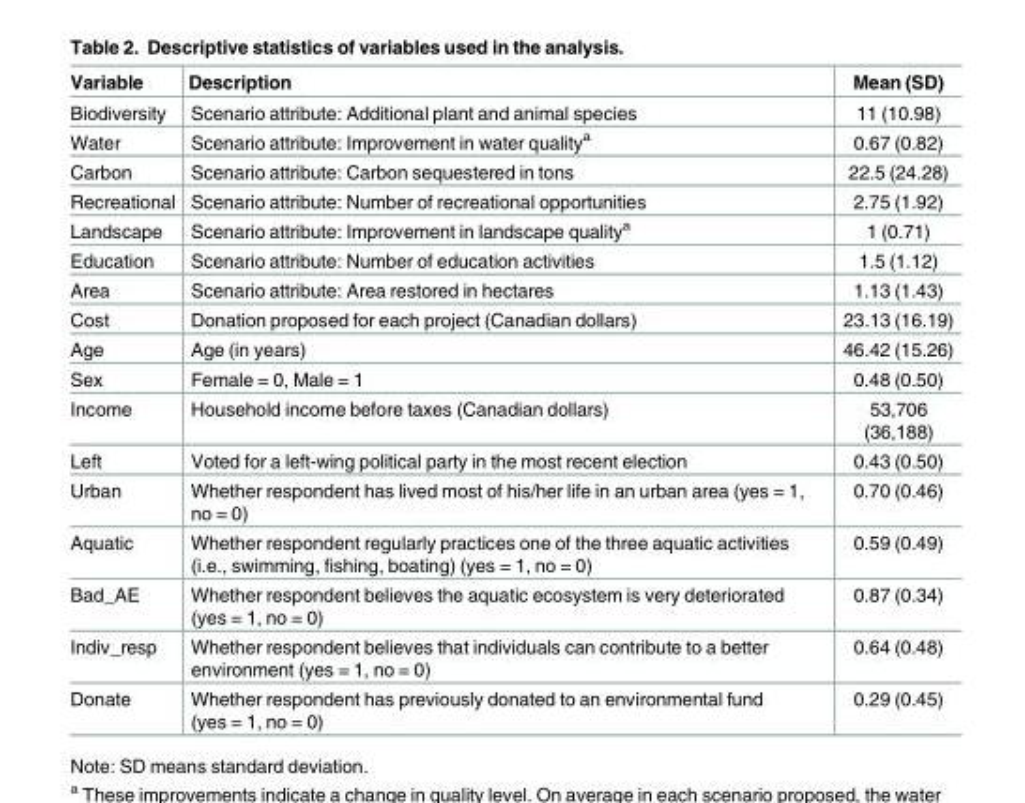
<table><thead><tr><td>Variable</td><td>Description</td><td>Mean (SD)</td></tr></thead><tbody><tr><td>Biodiversity</td><td>Scenario attribute: Additional plant and animal species</td><td>11 (10.98)</td></tr><tr><td>Water</td><td>Scenario attribute: Improvement in water quality<sup>a</sup></td><td>0.67 (0.82)</td></tr><tr><td>Carbon</td><td>Scenario attribute: Carbon sequestered in tons</td><td>22.5 (24.28)</td></tr><tr><td>Recreational</td><td>Scenario attribute: Number of recreational opportunities</td><td>2.75 (1.92)</td></tr><tr><td>Landscape</td><td>Scenario attribute: Improvement in landscape quality<sup>a</sup></td><td>1 (0.71)</td></tr><tr><td>Education</td><td>Scenario attribute: Number of education activities</td><td>1.5 (1.12)</td></tr><tr><td>Area</td><td>Scenario attribute: Area restored in hectares</td><td>1.13 (1.43)</td></tr><tr><td>Cost</td><td>Donation proposed for each project (Canadian dollars)</td><td>23.13 (16.19)</td></tr><tr><td>Age</td><td>Age (in years)</td><td>46.42 (15.26)</td></tr><tr><td>Sex</td><td>Female = 0, Male = 1</td><td>0.48 (0.50)</td></tr><tr><td>Income</td><td>Household income before taxes (Canadian dollars)</td><td>53,706 (36,188)</td></tr><tr><td>Left</td><td>Voted for a left-wing political party in the most recent election</td><td>0.43 (0.50)</td></tr><tr><td>Urban</td><td>Whether respondent has lived most of his/her life in an urban area (yes = 1, no = 0)</td><td>0.70 (0.46)</td></tr><tr><td>Aquatic</td><td>Whether respondent regularly practices one of the three aquatic activities (i.e., swimming, fishing, boating) (yes = 1, no = 0)</td><td>0.59 (0.49)</td></tr><tr><td>Bad_AE</td><td>Whether respondent believes the aquatic ecosystem is very deteriorated (yes = 1, no = 0)</td><td>0.87 (0.34)</td></tr><tr><td>Indiv_resp</td><td>Whether respondent believes that individuals can contribute to a better environment (yes = 1, no = 0)</td><td>0.64 (0.48)</td></tr><tr><td>Donate</td><td>Whether respondent has previously donated to an environmental fund (yes = 1, no = 0)</td><td>0.29 (0.45)</td></tr></tbody></table>